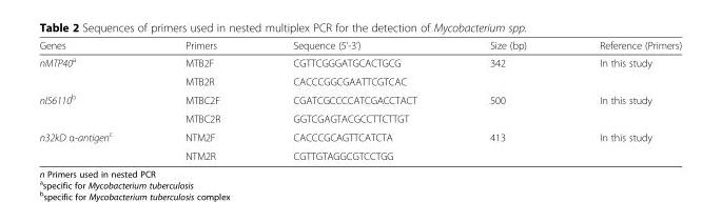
<table><thead><tr><td>Genes</td><td>Primers</td><td>Sequence (5’-3’)</td><td>Size (bp)</td><td>Reference (Primers)</td></tr></thead><tbody><tr><td rowspan="2">nMTP40<sup>a</sup></td><td>MTB2F</td><td>CGTTCGGGATGCACTGCG</td><td>342</td><td>In this study</td></tr><tr><td>MTB2R</td><td>CACCCGGCGAATTCGTCAC</td><td></td><td></td></tr><tr><td rowspan="2">nIS6110<sup>b</sup></td><td>MTBC2F</td><td>CGATCGCCCCATCGACCTACT</td><td>500</td><td>In this study</td></tr><tr><td>MTBC2R</td><td>GGTCGAGTACGCCTTCTTGT</td><td></td><td></td></tr><tr><td rowspan="2">n32kD α-antigen<sup>c</sup></td><td>NTM2F</td><td>CACCCGCAGTTCATCTA</td><td>413</td><td>In this study</td></tr><tr><td>NTM2R</td><td>CGTTGTAGGCGTCCTGG</td><td></td><td></td></tr></tbody></table>